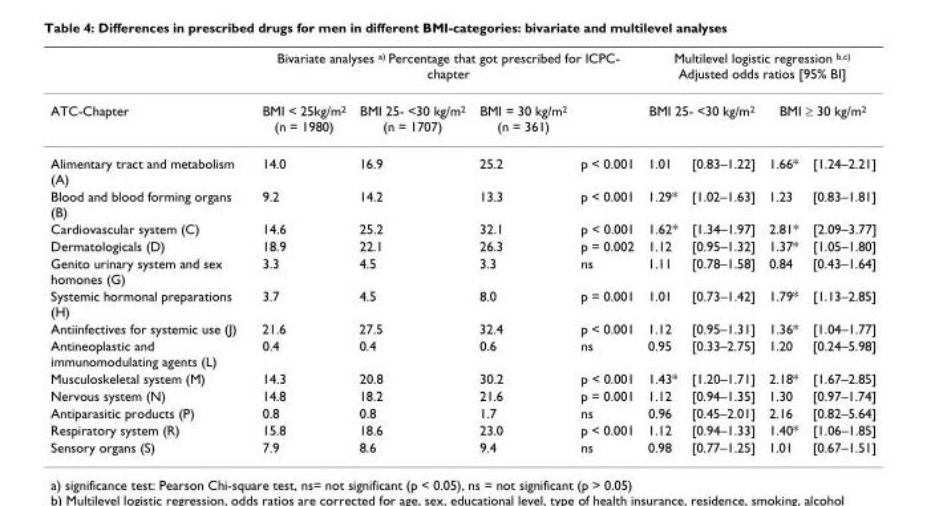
<table><thead><tr><td rowspan="3">ATC-Chapter Alimentary tract and metabolism (A)</td><td colspan="4">Bivariate analyses a) Percentage that got prescribed for ICPC- chapter</td><td colspan="4">Multilevel logistic regression b,c) Adjusted odds ratios [95% BI]</td></tr><tr><td rowspan="2">BMI &lt; 25kg/m2 (n = 1980) 14.0</td><td rowspan="2">BMI 25- &lt;30 kg/m2 (n = 1707) 16.9</td><td rowspan="2">BMI = 30 kg/m2 (n = 361) 25.2</td><td rowspan="2">p &lt; 0.001</td><td colspan="2">BMI 25- &lt;30 kg/m2</td><td colspan="2">BMI ≥ 30 kg/m2</td></tr><tr><td>1.01</td><td>[0.83–1.22]</td><td>1.66*</td><td>[1.24–2.21]</td></tr></thead><tbody><tr><td>Blood and blood forming organs (B)</td><td>9.2</td><td>14.2</td><td>13.3</td><td>p &lt; 0.001</td><td>1.29*</td><td>[1.02–1.63]</td><td>1.23</td><td>[0.83–1.81]</td></tr><tr><td>Cardiovascular system (C)</td><td>14.6</td><td>25.2</td><td>32.1</td><td>p &lt; 0.001</td><td>1.62*</td><td>[1.34–1.97]</td><td>2.81*</td><td>[2.09–3.77]</td></tr><tr><td>Dermatologicals (D)</td><td>18.9</td><td>22.1</td><td>26.3</td><td>p = 0.002</td><td>1.12</td><td>[0.95–1.32]</td><td>1.37*</td><td>[1.05–1.80]</td></tr><tr><td>Genito urinary system and sex homones (G)</td><td>3.3</td><td>4.5</td><td>3.3</td><td>ns</td><td>1.11</td><td>[0.78–1.58]</td><td>0.84</td><td>[0.43–1.64]</td></tr><tr><td>Systemic hormonal preparations (H)</td><td>3.7</td><td>4.5</td><td>8.0</td><td>p = 0.001</td><td>1.01</td><td>[0.73–1.42]</td><td>1.79*</td><td>[1.13–2.85]</td></tr><tr><td>Antiinfectives for systemic use (J)</td><td>21.6</td><td>27.5</td><td>32.4</td><td>p &lt; 0.001</td><td>1.12</td><td>[0.95–1.31]</td><td>1.36*</td><td>[1.04–1.77]</td></tr><tr><td>Antineoplastic and immunomodulating agents (L)</td><td>0.4</td><td>0.4</td><td>0.6</td><td>ns</td><td>0.95</td><td>[0.33–2.75]</td><td>1.20</td><td>[0.24–5.98]</td></tr><tr><td>Musculoskeletal system (M)</td><td>14.3</td><td>20.8</td><td>30.2</td><td>p &lt; 0.001</td><td>1.43*</td><td>[1.20–1.71]</td><td>2.18*</td><td>[1.67–2.85]</td></tr><tr><td>Nervous system (N)</td><td>14.8</td><td>18.2</td><td>21.6</td><td>p = 0.001</td><td>1.12</td><td>[0.94–1.35]</td><td>1.30</td><td>[0.97–1.74]</td></tr><tr><td>Antiparasitic products (P)</td><td>0.8</td><td>0.8</td><td>1.7</td><td>ns</td><td>0.96</td><td>[0.45–2.01]</td><td>2.16</td><td>[0.82–5.64]</td></tr><tr><td>Respiratory system (R)</td><td>15.8</td><td>18.6</td><td>23.0</td><td>p &lt; 0.001</td><td>1.12</td><td>[0.94–1.33]</td><td>1.40*</td><td>[1.06–1.85]</td></tr><tr><td>Sensory organs (S)</td><td>7.9</td><td>8.6</td><td>9.4</td><td>ns</td><td>0.98</td><td>[0.77–1.25]</td><td>1.01</td><td>[0.67–1.51]</td></tr></tbody></table>